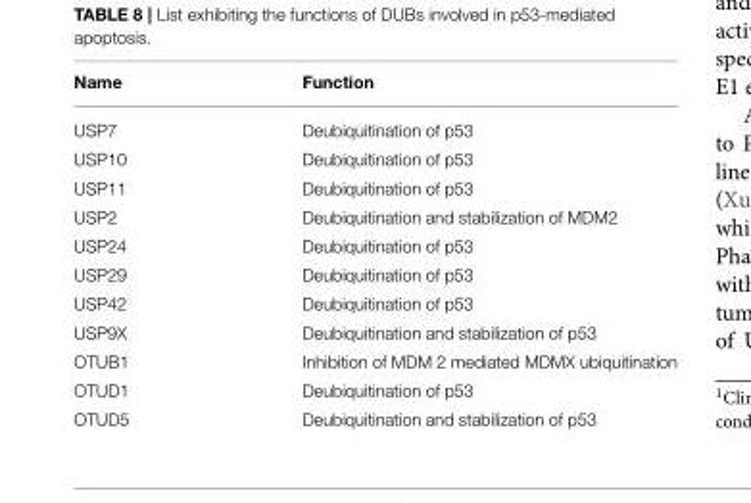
<table><thead><tr><td>Name</td><td>Function</td></tr></thead><tbody><tr><td>USP7</td><td>Deubiquitination of p53</td></tr><tr><td>USP10</td><td>Deubiquitination of p53</td></tr><tr><td>USP11</td><td>Deubiquitination of p53</td></tr><tr><td>USP2</td><td>Deubiquitination and stabilization of MDM2</td></tr><tr><td>USP24</td><td>Deubiquitination of p53</td></tr><tr><td>USP29</td><td>Deubiquitination of p53</td></tr><tr><td>USP42</td><td>Deubiquitination of p53</td></tr><tr><td>USP9X</td><td>Deubiquitination and stabilization of p53</td></tr><tr><td>OTUB1</td><td>Inhibition of MDM 2 mediated MDMX ubiquitination</td></tr><tr><td>OTUD1</td><td>Deubiquitination of p53</td></tr><tr><td>OTUD5</td><td>Deubiquitination and stabilization of p53</td></tr></tbody></table>